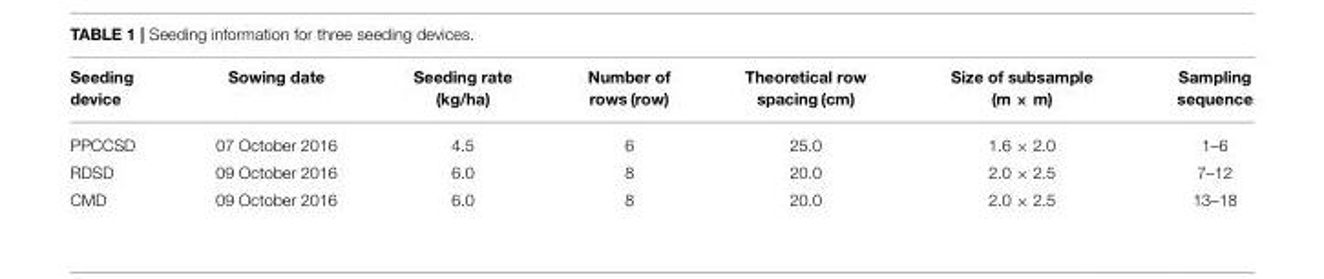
<table><thead><tr><td>Seeding device</td><td>Sowing date</td><td>Seeding rate (kg/ha)</td><td>Number of rows (row)</td><td>Theoretical row spacing (cm)</td><td>Size of subsample (m × m)</td><td>Sampling sequence</td></tr></thead><tbody><tr><td>PPCCSD</td><td>07 October 2016</td><td>4.5</td><td>6</td><td>25.0</td><td>1.6 × 2.0</td><td>1–6</td></tr><tr><td>RDSD</td><td>09 October 2016</td><td>6.0</td><td>8</td><td>20.0</td><td>2.0 × 2.5</td><td>7–12</td></tr><tr><td>CMD</td><td>09 October 2016</td><td>6.0</td><td>8</td><td>20.0</td><td>2.0 × 2.5</td><td>13–18</td></tr></tbody></table>